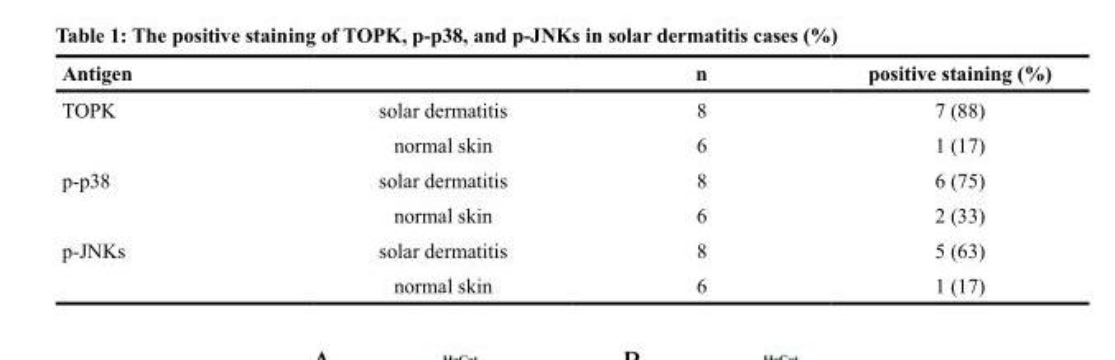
<table><thead><tr><td>Antigen</td><td></td><td>n</td><td>positive staining (%)</td></tr></thead><tbody><tr><td rowspan="2">TOPK</td><td>solar dermatitis</td><td>8</td><td>7 (88)</td></tr><tr><td>normal skin</td><td>6</td><td>1 (17)</td></tr><tr><td rowspan="2">p-p38</td><td>solar dermatitis</td><td>8</td><td>6 (75)</td></tr><tr><td>normal skin</td><td>6</td><td>2 (33)</td></tr><tr><td rowspan="2">p-JNKs</td><td>solar dermatitis</td><td>8</td><td>5 (63)</td></tr><tr><td>normal skin</td><td>6</td><td>1 (17)</td></tr></tbody></table>